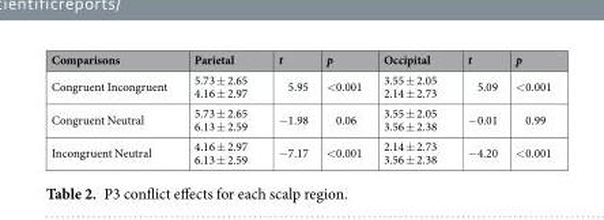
<table><thead><tr><td>Comparisons</td><td>Parietal</td><td>t</td><td>p</td><td>Occipital</td><td>t</td><td>p</td></tr></thead><tbody><tr><td>Congruent Incongruent</td><td>5.73 ± 2.65 4.16 ± 2.97</td><td>5.95</td><td>&lt;0.001</td><td>3.55 ± 2.05 2.14 ± 2.73</td><td>5.09</td><td>&lt;0.001</td></tr><tr><td>Congruent Neutral</td><td>5.73 ± 2.65 6.13 ± 2.59</td><td>−1.98</td><td>0.06</td><td>3.55 ± 2.05 3.56 ± 2.38</td><td>−0.01</td><td>0.99</td></tr><tr><td>Incongruent Neutral</td><td>4.16 ± 2.97 6.13 ± 2.59</td><td>−7.17</td><td>&lt;0.001</td><td>2.14 ± 2.73 3.56 ± 2.38</td><td>−4.20</td><td>&lt;0.001</td></tr></tbody></table>